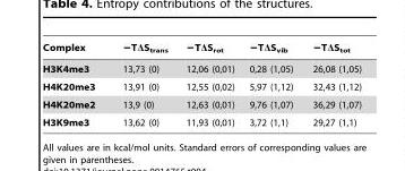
<table><thead><tr><td>Complex</td><td>−TΔS<sub>trans</sub></td><td>−TΔS<sub>rot</sub></td><td>−TΔS<sub>vib</sub></td><td>−TΔS<sub>tot</sub></td></tr></thead><tbody><tr><td>H3K4me3</td><td>13,73 (0)</td><td>12,06 (0,01)</td><td>0,28 (1,05)</td><td>26,08 (1,05)</td></tr><tr><td>H4K20me3</td><td>13,91 (0)</td><td>12,55 (0,02)</td><td>5,97 (1,12)</td><td>32,43 (1,12)</td></tr><tr><td>H4K20me2</td><td>13,9 (0)</td><td>12,63 (0,01)</td><td>9,76 (1,07)</td><td>36,29 (1,07)</td></tr><tr><td>H3K9me3</td><td>13,62 (0)</td><td>11,93 (0,01)</td><td>3,72 (1,1)</td><td>29,27 (1,1)</td></tr></tbody></table>